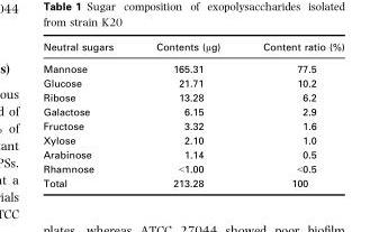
<table><thead><tr><td>Neutral sugars</td><td>Contents (μg)</td><td>Content ratio (%)</td></tr></thead><tbody><tr><td>Mannose</td><td>165.31</td><td>77.5</td></tr><tr><td>Glucose</td><td>21.71</td><td>10.2</td></tr><tr><td>Ribose</td><td>13.28</td><td>6.2</td></tr><tr><td>Galactose</td><td>6.15</td><td>2.9</td></tr><tr><td>Fructose</td><td>3.32</td><td>1.6</td></tr><tr><td>Xylose</td><td>2.10</td><td>1.0</td></tr><tr><td>Arabinose</td><td>1.14</td><td>0.5</td></tr><tr><td>Rhamnose</td><td>&lt;1.00</td><td>&lt;0.5</td></tr><tr><td>Total</td><td>213.28</td><td>100</td></tr></tbody></table>